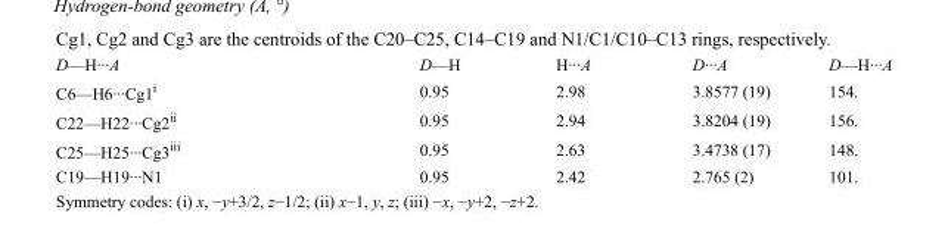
<table><tbody><tr><td>D—H···A</td><td>D—H</td><td>H···A</td><td>D···A</td><td>D—H···A</td></tr><tr><td>C6—H6···Cg1<sup>i</sup></td><td>0.95</td><td>2.98</td><td>3.8577 (19)</td><td>154.</td></tr><tr><td>C22—H22···Cg2<sup>ii</sup></td><td>0.95</td><td>2.94</td><td>3.8204 (19)</td><td>156.</td></tr><tr><td>C25—H25···Cg3<sup>iii</sup></td><td>0.95</td><td>2.63</td><td>3.4738 (17)</td><td>148.</td></tr><tr><td>C19—H19···N1</td><td>0.95</td><td>2.42</td><td>2.765 (2)</td><td>101.</td></tr></tbody></table>